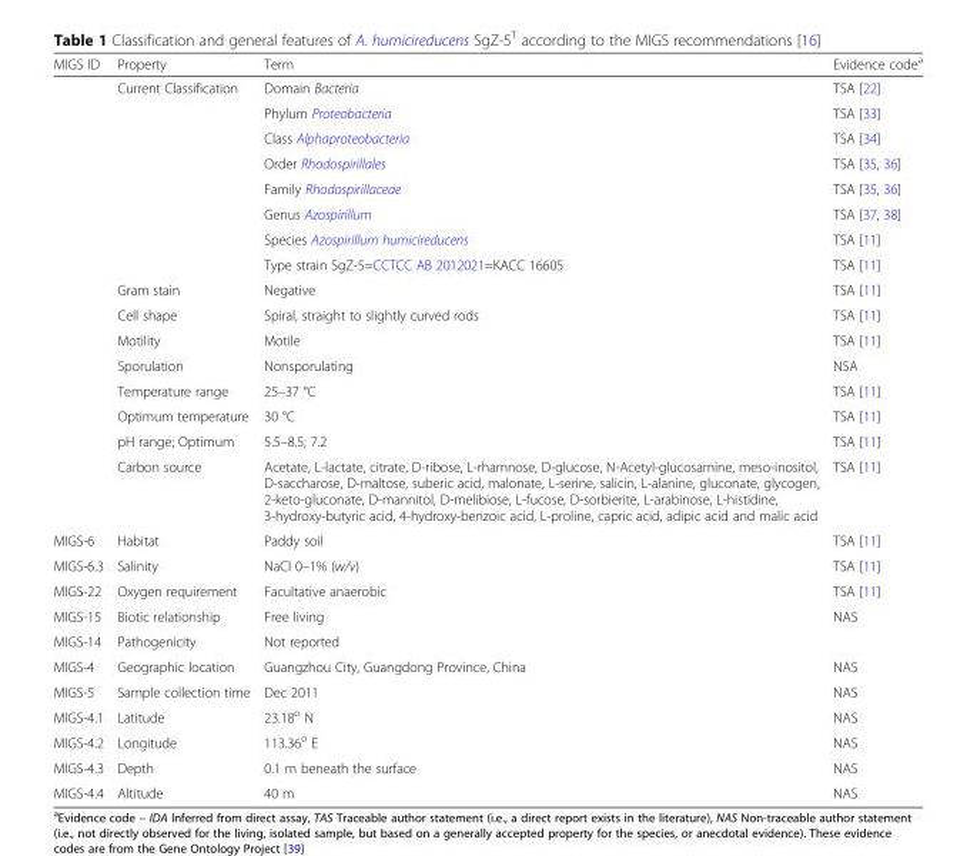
<table><thead><tr><td>MIGS ID</td><td>Property</td><td>Term</td><td>Evidence code<sup>a</sup></td></tr></thead><tbody><tr><td rowspan="16"></td><td rowspan="8">Current Classification</td><td>Domain Bacteria</td><td>TSA [22]</td></tr><tr><td>Phylum Proteobacteria</td><td>TSA [33]</td></tr><tr><td>Class Alphaproteobacteria</td><td>TSA [34]</td></tr><tr><td>Order Rhodospirillales</td><td>TSA [35, 36]</td></tr><tr><td>Family Rhodospirillaceae</td><td>TSA [35, 36]</td></tr><tr><td>Genus Azospirillum</td><td>TSA [37, 38]</td></tr><tr><td>Species Azospirillum humicireducens</td><td>TSA [11]</td></tr><tr><td>Type strain SgZ-5=CCTCC AB 2012021=KACC 16605</td><td>TSA [11]</td></tr><tr><td>Gram stain</td><td>Negative</td><td>TSA [11]</td></tr><tr><td>Cell shape</td><td>Spiral, straight to slightly curved rods</td><td>TSA [11]</td></tr><tr><td>Motility</td><td>Motile</td><td>TSA [11]</td></tr><tr><td>Sporulation</td><td>Nonsporulating</td><td>NSA</td></tr><tr><td>Temperature range</td><td>25–37 °C</td><td>TSA [11]</td></tr><tr><td>Optimum temperature</td><td>30 °C</td><td>TSA [11]</td></tr><tr><td>pH range; Optimum</td><td>5.5–8.5; 7.2</td><td>TSA [11]</td></tr><tr><td>Carbon source</td><td>Acetate, L-lactate, citrate, D-ribose, L-rhamnose, D-glucose, N-Acetyl-glucosamine, meso-inositol, D-saccharose, D-maltose, suberic acid, malonate, L-serine, salicin, L-alanine, gluconate, glycogen, 2-keto-gluconate, D-mannitol, D-melibiose, L-fucose, D-sorbierite, L-arabinose, L-histidine, 3-hydroxy-butyric acid, 4-hydroxy-benzoic acid, L-proline, capric acid, adipic acid and malic acid</td><td>TSA [11]</td></tr><tr><td>MIGS-6</td><td>Habitat</td><td>Paddy soil</td><td>TSA [11]</td></tr><tr><td>MIGS-6.3</td><td>Salinity</td><td>NaCl 0–1% (w/v)</td><td>TSA [11]</td></tr><tr><td>MIGS-22</td><td>Oxygen requirement</td><td>Facultative anaerobic</td><td>TSA [11]</td></tr><tr><td>MIGS-15</td><td>Biotic relationship</td><td>Free living</td><td>NAS</td></tr><tr><td>MIGS-14</td><td>Pathogenicity</td><td>Not reported</td><td></td></tr><tr><td>MIGS-4</td><td>Geographic location</td><td>Guangzhou City, Guangdong Province, China</td><td>NAS</td></tr><tr><td>MIGS-5</td><td>Sample collection time</td><td>Dec 2011</td><td>NAS</td></tr><tr><td>MIGS-4.1</td><td>Latitude</td><td>23.18<sup>o</sup> N</td><td>NAS</td></tr><tr><td>MIGS-4.2</td><td>Longitude</td><td>113.36<sup>o</sup> E</td><td>NAS</td></tr><tr><td>MIGS-4.3</td><td>Depth</td><td>0.1 m beneath the surface</td><td>NAS</td></tr><tr><td>MIGS-4.4</td><td>Altitude</td><td>40 m</td><td>NAS</td></tr></tbody></table>